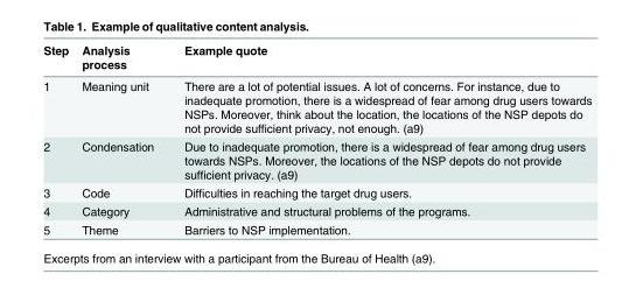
<table><thead><tr><td>Step</td><td>Analysis process</td><td>Example quote</td></tr></thead><tbody><tr><td>1</td><td>Meaning unit</td><td>There are a lot of potential issues. A lot of concerns. For instance, due to inadequate promotion, there is a widespread of fear among drug users towards NSPs. Moreover, think about the location, the locations of the NSP depots do not provide sufficient privacy, not enough. (a9)</td></tr><tr><td>2</td><td>Condensation</td><td>Due to inadequate promotion, there is a widespread of fear among drug users towards NSPs. Moreover, the locations of the NSP depots do not provide sufficient privacy. (a9)</td></tr><tr><td>3</td><td>Code</td><td>Difficulties in reaching the target drug users.</td></tr><tr><td>4</td><td>Category</td><td>Administrative and structural problems of the programs.</td></tr><tr><td>5</td><td>Theme</td><td>Barriers to NSP implementation.</td></tr></tbody></table>